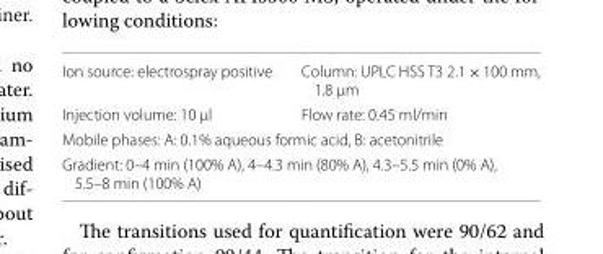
<table><tbody><tr><td>Ion source: electrospray positive</td><td>Column: UPLC HSS T3 2.1 × 100 mm, 1.8 µm</td></tr><tr><td>Injection volume: 10 µl</td><td>Flow rate: 0.45 ml/min</td></tr><tr><td colspan="2">Mobile phases: A: 0.1% aqueous formic acid, B: acetonitrile</td></tr><tr><td colspan="2">Gradient: 0–4 min (100% A), 4–4.3 min (80% A), 4.3–5.5 min (0% A), 5.5–8 min (100% A)</td></tr></tbody></table>